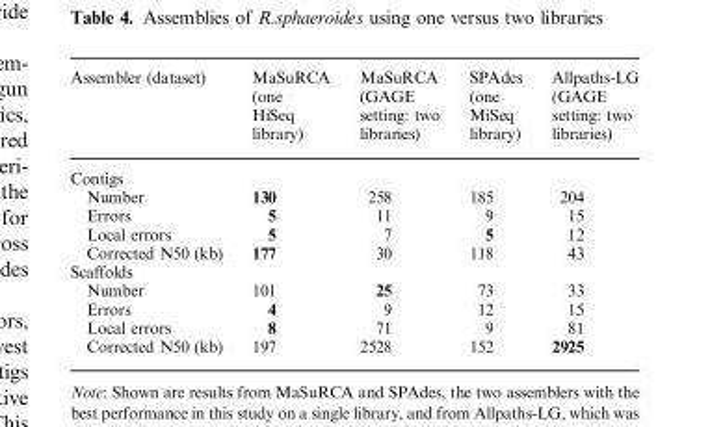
<table><thead><tr><td>Assembler (dataset)</td><td>MaSuRCA (one HiSeq library)</td><td>MaSuRCA (GAGE setting: two libraries)</td><td>SPAdes (one MiSeq library)</td><td>Allpaths-LG (GAGE setting: two libraries)</td></tr></thead><tbody><tr><td colspan="5">Contigs</td></tr><tr><td>Number</td><td>130</td><td>258</td><td>185</td><td>204</td></tr><tr><td>Errors</td><td>5</td><td>11</td><td>9</td><td>15</td></tr><tr><td>Local errors</td><td>5</td><td>7</td><td>5</td><td>12</td></tr><tr><td>Corrected N50 (kb)</td><td>177</td><td>30</td><td>118</td><td>43</td></tr><tr><td colspan="5">Scaffolds</td></tr><tr><td>Number</td><td>101</td><td>25</td><td>73</td><td>33</td></tr><tr><td>Errors</td><td>4</td><td>9</td><td>12</td><td>15</td></tr><tr><td>Local errors</td><td>8</td><td>71</td><td>9</td><td>81</td></tr><tr><td>Corrected N50 (kb)</td><td>197</td><td>2528</td><td>152</td><td>2925</td></tr></tbody></table>